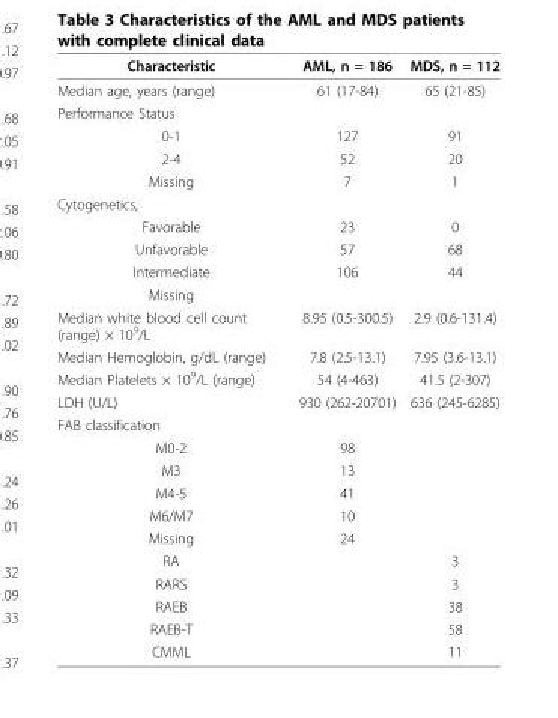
<table><thead><tr><td>Characteristic</td><td>AML, n = 186</td><td>MDS, n = 112</td></tr></thead><tbody><tr><td>Median age, years (range)</td><td>61 (17-84)</td><td>65 (21-85)</td></tr><tr><td colspan="3">Performance Status</td></tr><tr><td>0-1</td><td>127</td><td>91</td></tr><tr><td>2-4</td><td>52</td><td>20</td></tr><tr><td>Missing</td><td>7</td><td>1</td></tr><tr><td colspan="3">Cytogenetics,</td></tr><tr><td>Favorable</td><td>23</td><td>0</td></tr><tr><td>Unfavorable</td><td>57</td><td>68</td></tr><tr><td>Intermediate</td><td>106</td><td>44</td></tr><tr><td colspan="3">Missing</td></tr><tr><td>Median white blood cell count (range) × 10<sup>9</sup>/L</td><td>8.95 (0.5-300.5)</td><td>2.9 (0.6-131.4)</td></tr><tr><td>Median Hemoglobin, g/dL (range)</td><td>7.8 (2.5-13.1)</td><td>7.95 (3.6-13.1)</td></tr><tr><td>Median Platelets × 10<sup>9</sup>/L (range)</td><td>54 (4-463)</td><td>41.5 (2-307)</td></tr><tr><td>LDH (U/L)</td><td>930 (262-20701)</td><td>636 (245-6285)</td></tr><tr><td colspan="3">FAB classification</td></tr><tr><td>M0-2</td><td>98</td><td></td></tr><tr><td>M3</td><td>13</td><td></td></tr><tr><td>M4-5</td><td>41</td><td></td></tr><tr><td>M6/M7</td><td>10</td><td></td></tr><tr><td>Missing</td><td>24</td><td></td></tr><tr><td>RA</td><td></td><td>3</td></tr><tr><td>RARS</td><td></td><td>3</td></tr><tr><td>RAEB</td><td></td><td>38</td></tr><tr><td>RAEB-T</td><td></td><td>58</td></tr><tr><td>CMML</td><td></td><td>11</td></tr></tbody></table>